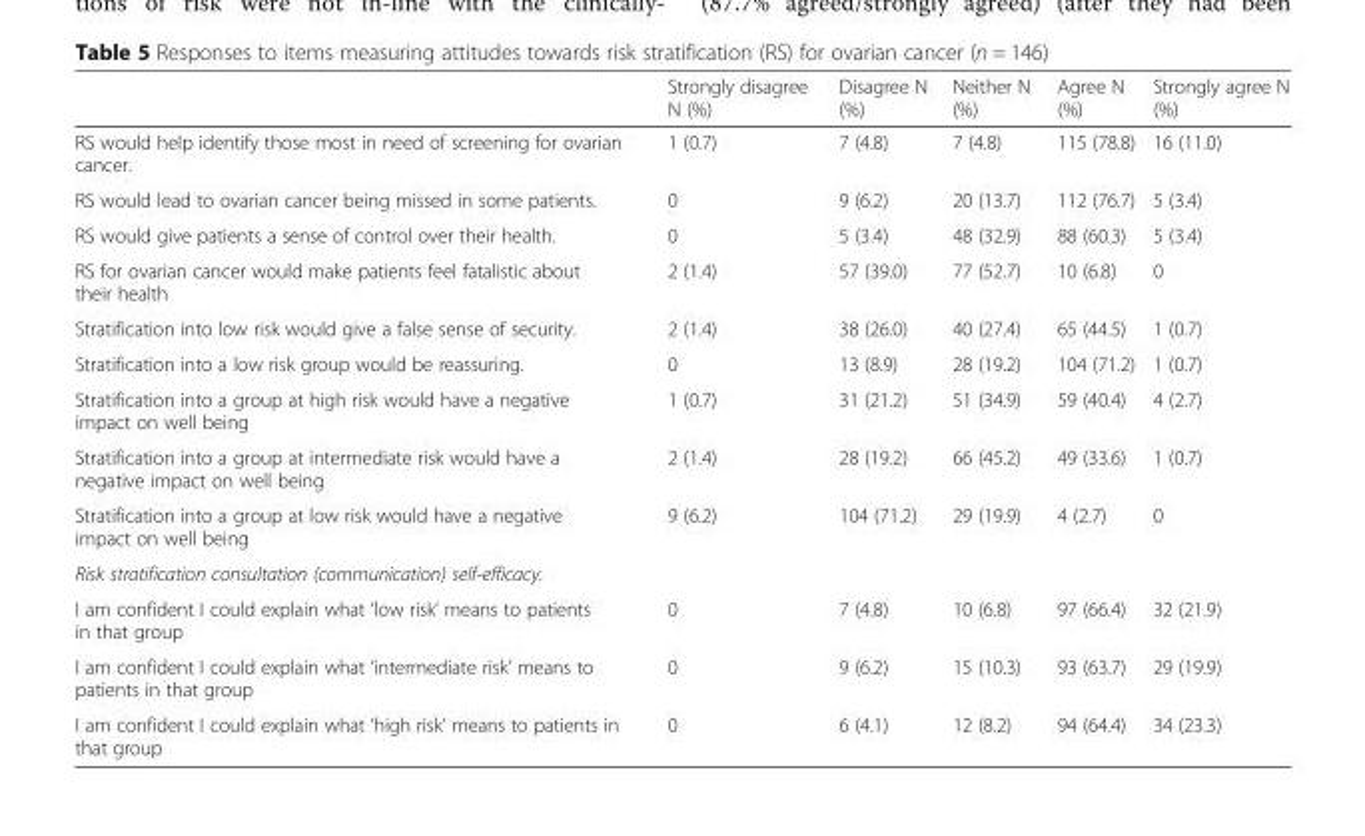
<table><thead><tr><td></td><td>Strongly disagree N (%)</td><td>Disagree N (%)</td><td>Neither N (%)</td><td>Agree N (%)</td><td>Strongly agree N (%)</td></tr></thead><tbody><tr><td>RS would help identify those most in need of screening for ovarian cancer.</td><td>1 (0.7)</td><td>7 (4.8)</td><td>7 (4.8)</td><td>115 (78.8)</td><td>16 (11.0)</td></tr><tr><td>RS would lead to ovarian cancer being missed in some patients.</td><td>0</td><td>9 (6.2)</td><td>20 (13.7)</td><td>112 (76.7)</td><td>5 (3.4)</td></tr><tr><td>RS would give patients a sense of control over their health.</td><td>0</td><td>5 (3.4)</td><td>48 (32.9)</td><td>88 (60.3)</td><td>5 (3.4)</td></tr><tr><td>RS for ovarian cancer would make patients feel fatalistic about their health</td><td>2 (1.4)</td><td>57 (39.0)</td><td>77 (52.7)</td><td>10 (6.8)</td><td>0</td></tr><tr><td>Stratification into low risk would give a false sense of security.</td><td>2 (1.4)</td><td>38 (26.0)</td><td>40 (27.4)</td><td>65 (44.5)</td><td>1 (0.7)</td></tr><tr><td>Stratification into a low risk group would be reassuring.</td><td>0</td><td>13 (8.9)</td><td>28 (19.2)</td><td>104 (71.2)</td><td>1 (0.7)</td></tr><tr><td>Stratification into a group at high risk would have a negative impact on well being</td><td>1 (0.7)</td><td>31 (21.2)</td><td>51 (34.9)</td><td>59 (40.4)</td><td>4 (2.7)</td></tr><tr><td>Stratification into a group at intermediate risk would have a negative impact on well being</td><td>2 (1.4)</td><td>28 (19.2)</td><td>66 (45.2)</td><td>49 (33.6)</td><td>1 (0.7)</td></tr><tr><td>Stratification into a group at low risk would have a negative impact on well being</td><td>9 (6.2)</td><td>104 (71.2)</td><td>29 (19.9)</td><td>4 (2.7)</td><td>0</td></tr><tr><td colspan="6">Risk stratification consultation (communication) self-efficacy.</td></tr><tr><td>I am confident I could explain what ‘low risk’ means to patients in that group</td><td>0</td><td>7 (4.8)</td><td>10 (6.8)</td><td>97 (66.4)</td><td>32 (21.9)</td></tr><tr><td>I am confident I could explain what ‘intermediate risk’ means to patients in that group</td><td>0</td><td>9 (6.2)</td><td>15 (10.3)</td><td>93 (63.7)</td><td>29 (19.9)</td></tr><tr><td>I am confident I could explain what ‘high risk’ means to patients in that group</td><td>0</td><td>6 (4.1)</td><td>12 (8.2)</td><td>94 (64.4)</td><td>34 (23.3)</td></tr></tbody></table>